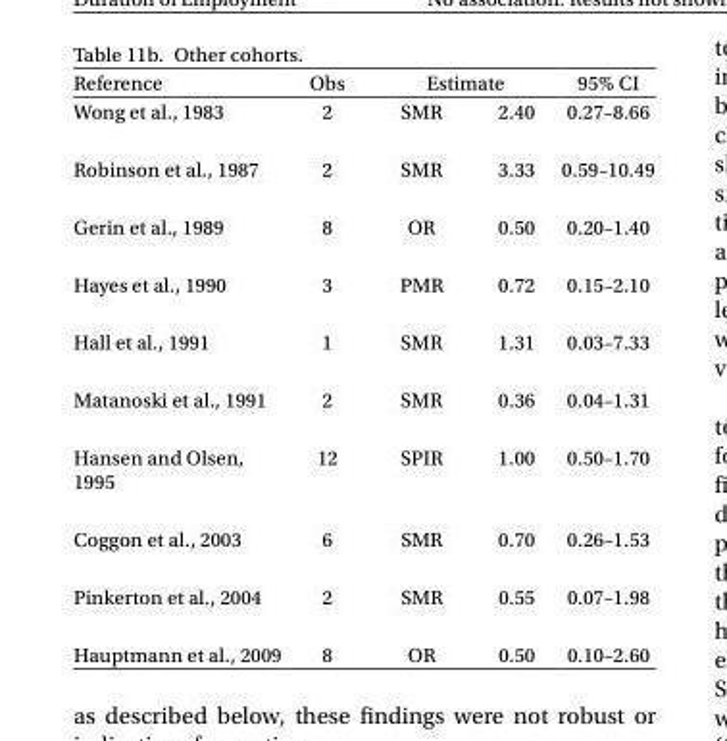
<table><thead><tr><td rowspan="2">Reference Wong et al., 1983</td><td rowspan="2">Obs 2</td><td colspan="2">Estimate</td><td rowspan="2">95% CI 0.27–8.66</td></tr><tr><td>SMR</td><td>2.40</td></tr></thead><tbody><tr><td>Robinson et al., 1987</td><td>2</td><td>SMR</td><td>3.33</td><td>0.59–10.49</td></tr><tr><td>Gerin et al., 1989</td><td>8</td><td>OR</td><td>0.50</td><td>0.20–1.40</td></tr><tr><td>Hayes et al., 1990</td><td>3</td><td>PMR</td><td>0.72</td><td>0.15–2.10</td></tr><tr><td>Hall et al., 1991</td><td>1</td><td>SMR</td><td>1.31</td><td>0.03–7.33</td></tr><tr><td>Matanoski et al., 1991</td><td>2</td><td>SMR</td><td>0.36</td><td>0.04–1.31</td></tr><tr><td>Hansen and Olsen, 1995</td><td>12</td><td>SPIR</td><td>1.00</td><td>0.50–1.70</td></tr><tr><td>Coggon et al., 2003</td><td>6</td><td>SMR</td><td>0.70</td><td>0.26–1.53</td></tr><tr><td>Pinkerton et al., 2004</td><td>2</td><td>SMR</td><td>0.55</td><td>0.07–1.98</td></tr><tr><td>Hauptmann et al., 2009</td><td>8</td><td>OR</td><td>0.50</td><td>0.10–2.60</td></tr></tbody></table>